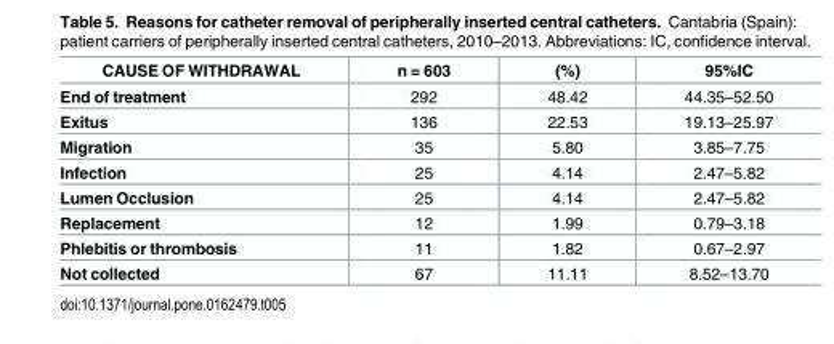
<table><thead><tr><td>CAUSE OF WITHDRAWAL</td><td>n = 603</td><td>(%)</td><td>95%IC</td></tr></thead><tbody><tr><td>End of treatment</td><td>292</td><td>48.42</td><td>44.35–52.50</td></tr><tr><td>Exitus</td><td>136</td><td>22.53</td><td>19.13–25.97</td></tr><tr><td>Migration</td><td>35</td><td>5.80</td><td>3.85–7.75</td></tr><tr><td>Infection</td><td>25</td><td>4.14</td><td>2.47–5.82</td></tr><tr><td>Lumen Occlusion</td><td>25</td><td>4.14</td><td>2.47–5.82</td></tr><tr><td>Replacement</td><td>12</td><td>1.99</td><td>0.79–3.18</td></tr><tr><td>Phlebitis or thrombosis</td><td>11</td><td>1.82</td><td>0.67–2.97</td></tr><tr><td>Not collected</td><td>67</td><td>11.11</td><td>8.52–13.70</td></tr></tbody></table>